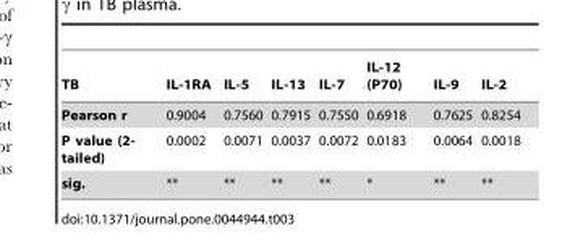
<table><thead><tr><td>TB</td><td>IL-1RA</td><td>IL-5</td><td>IL-13</td><td>IL-7</td><td>IL-12 (P70)</td><td>IL-9</td><td>IL-2</td></tr></thead><tbody><tr><td>Pearson r</td><td>0.9004</td><td>0.7560</td><td>0.7915</td><td>0.7550</td><td>0.6918</td><td>0.7625</td><td>0.8254</td></tr><tr><td>P value (2- tailed)</td><td>0.0002</td><td>0.0071</td><td>0.0037</td><td>0.0072</td><td>0.0183</td><td>0.0064</td><td>0.0018</td></tr><tr><td>sig.</td><td>**</td><td>**</td><td>**</td><td>**</td><td>*</td><td>**</td><td>**</td></tr></tbody></table>